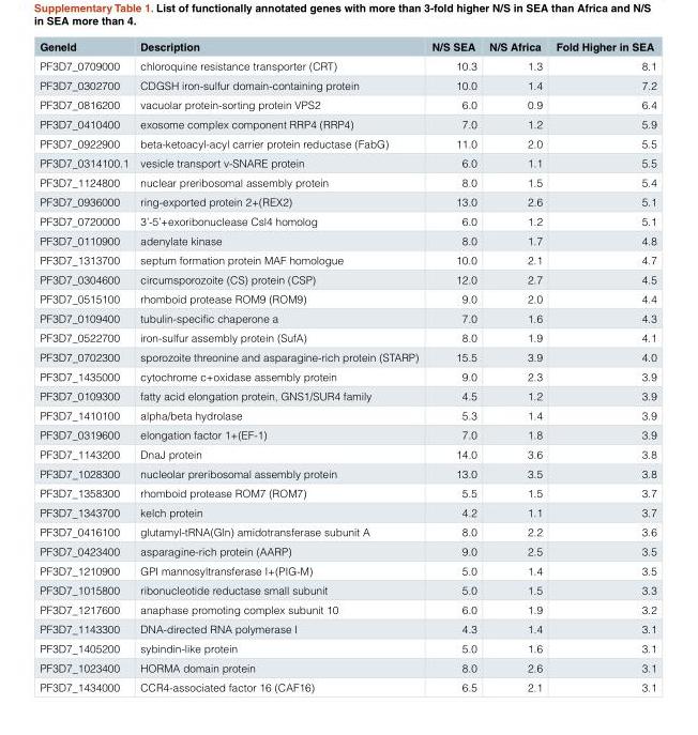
<table><thead><tr><td>Geneld</td><td>Description</td><td>N/S SEA</td><td>N/S Africa</td><td>Fold Higher in SEA</td></tr></thead><tbody><tr><td>PF3D7_0709000</td><td>chloroquine resistance transporter (CRT)</td><td>10.3</td><td>1.3</td><td>8.1</td></tr><tr><td>PF3D7_0302700</td><td>CDGSH iron-sulfur domain-containing protein</td><td>10.0</td><td>1.4</td><td>7.2</td></tr><tr><td>PF3D7_0816200</td><td>vacuolar protein-sorting protein VPS2</td><td>6.0</td><td>0.9</td><td>6.4</td></tr><tr><td>PF3D7_0410400</td><td>exosome complex component RRP4 (RRP4)</td><td>7.0</td><td>1.2</td><td>5.9</td></tr><tr><td>PF3D7_0922900</td><td>beta-ketoacyl-acyl carrier protein reductase (FabG)</td><td>11.0</td><td>2.0</td><td>5.5</td></tr><tr><td>PF3D7_0314100.1</td><td>vesicle transport v-SNARE protein</td><td>6.0</td><td>1.1</td><td>5.5</td></tr><tr><td>PF3D7_1124800</td><td>nuclear preribosomal assembly protein</td><td>8.0</td><td>1.5</td><td>5.4</td></tr><tr><td>PF3D7_0936000</td><td>ring-exported protein 2+(REX2)</td><td>13.0</td><td>2.6</td><td>5.1</td></tr><tr><td>PF3D7_0720000</td><td>3’-5’+exoribonuclease Csl4 homolog</td><td>6.0</td><td>1.2</td><td>5.1</td></tr><tr><td>PF3D7_0110900</td><td>adenylate kinase</td><td>8.0</td><td>1.7</td><td>4.8</td></tr><tr><td>PF3D7_1313700</td><td>septum formation protein MAF homologue</td><td>10.0</td><td>2.1</td><td>4.7</td></tr><tr><td>PF3D7_0304600</td><td>circumsporozoite (CS) protein (CSP)</td><td>12.0</td><td>2.7</td><td>4.5</td></tr><tr><td>PF3D7_0515100</td><td>rhomboid protease ROM9 (ROM9)</td><td>9.0</td><td>2.0</td><td>4.4</td></tr><tr><td>PF3D7_0109400</td><td>tubulin-specific chaperone a</td><td>7.0</td><td>1.6</td><td>4.3</td></tr><tr><td>PF3D7_0522700</td><td>iron-sulfur assembly protein (SufA)</td><td>8.0</td><td>1.9</td><td>4.1</td></tr><tr><td>PF3D7_0702300</td><td>sporozoite threonine and asparagine-rich protein (STARP)</td><td>15.5</td><td>3.9</td><td>4.0</td></tr><tr><td>PF3D7_1435000</td><td>cytochrome c+oxidase assembly protein</td><td>9.0</td><td>2.3</td><td>3.9</td></tr><tr><td>PF3D7_0109300</td><td>fatty acid elongation protein, GNS1/SUR4 family</td><td>4.5</td><td>1.2</td><td>3.9</td></tr><tr><td>PF3D7_1410100</td><td>alpha/beta hydrolase</td><td>5.3</td><td>1.4</td><td>3.9</td></tr><tr><td>PF3D7_0319600</td><td>elongation factor 1+(EF-1)</td><td>7.0</td><td>1.8</td><td>3.9</td></tr><tr><td>PF3D7_1143200</td><td>DnaJ protein</td><td>14.0</td><td>3.6</td><td>3.8</td></tr><tr><td>PF3D7_1028300</td><td>nucleolar preribosomal assembly protein</td><td>13.0</td><td>3.5</td><td>3.8</td></tr><tr><td>PF3D7_1358300</td><td>rhomboid protease ROM7 (ROM7)</td><td>5.5</td><td>1.5</td><td>3.7</td></tr><tr><td>PF3D7_1343700</td><td>kelch protein</td><td>4.2</td><td>1.1</td><td>3.7</td></tr><tr><td>PF3D7_0416100</td><td>glutamyl-tRNA(Gln) amidotransferase subunit A</td><td>8.0</td><td>2.2</td><td>3.6</td></tr><tr><td>PF3D7_0423400</td><td>asparagine-rich protein (AARP)</td><td>9.0</td><td>2.5</td><td>3.5</td></tr><tr><td>PF3D7_1210900</td><td>GPI mannosyltransferase I+(PIG-M)</td><td>5.0</td><td>1.4</td><td>3.5</td></tr><tr><td>PF3D7_1015800</td><td>ribonucleotide reductase small subunit</td><td>5.0</td><td>1.5</td><td>3.3</td></tr><tr><td>PF3D7_1217600</td><td>anaphase promoting complex subunit 10</td><td>6.0</td><td>1.9</td><td>3.2</td></tr><tr><td>PF3D7_1143300</td><td>DNA-directed RNA polymerase I</td><td>4.3</td><td>1.4</td><td>3.1</td></tr><tr><td>PF3D7_1405200</td><td>sybindin-like protein</td><td>5.0</td><td>1.6</td><td>3.1</td></tr><tr><td>PF3D7_1023400</td><td>HORMA domain protein</td><td>8.0</td><td>2.6</td><td>3.1</td></tr><tr><td>PF3D7_1434000</td><td>CCR4-associated factor 16 (CAF16)</td><td>6.5</td><td>2.1</td><td>3.1</td></tr></tbody></table>